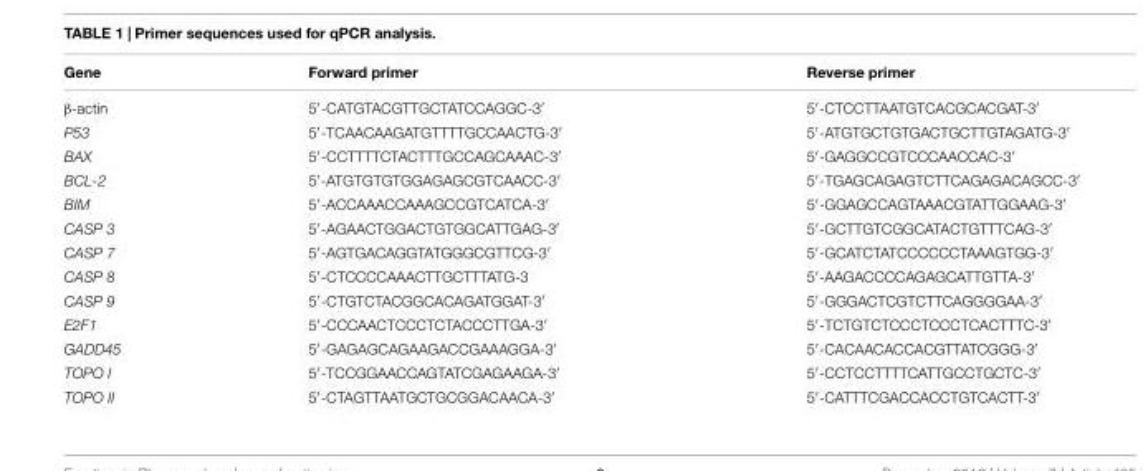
<table><thead><tr><td>Gene</td><td>Forward primer</td><td>Reverse primer</td></tr></thead><tbody><tr><td>β-actin</td><td>5′-CATGTACGTTGCTATCCAGGC-3′</td><td>5′-CTCCTTAATGTCACGCACGAT-3′</td></tr><tr><td>P53</td><td>5′-TCAACAAGATGTTTTGCCAACTG-3′</td><td>5′-ATGTGCTGTGACTGCTTGTAGATG-3′</td></tr><tr><td>BAX</td><td>5′-CCTTTTCTACTTTGCCAGCAAAC-3′</td><td>5′-GAGGCCGTCCCAACCAC-3′</td></tr><tr><td>BCL-2</td><td>5′-ATGTGTGTGGAGAGCGTCAACC-3′</td><td>5′-TGAGCAGAGTCTTCAGAGACAGCC-3′</td></tr><tr><td>BIM</td><td>5′-ACCAAACCAAAGCCGTCATCA-3′</td><td>5′-GGAGCCAGTAAACGTATTGGAAG-3′</td></tr><tr><td>CASP 3</td><td>5′-AGAACTGGACTGTGGCATTGAG-3′</td><td>5′-GCTTGTCGGCATACTGTTTCAG-3′</td></tr><tr><td>CASP 7</td><td>5′-AGTGACAGGTATGGGCGTTCG-3′</td><td>5′-GCATCTATCCCCCCTAAAGTGG-3′</td></tr><tr><td>CASP 8</td><td>5′-CTCCCCAAACTTGCTTTATG-3</td><td>5′-AAGACCCCAGAGCATTGTTA-3′</td></tr><tr><td>CASP 9</td><td>5′-CTGTCTACGGCACAGATGGAT-3′</td><td>5′-GGGACTCGTCTTCAGGGGAA-3′</td></tr><tr><td>E2F1</td><td>5′-CCCAACTCCCTCTACCCTTGA-3′</td><td>5′-TCTGTCTCCCTCCCTCACTTTC-3′</td></tr><tr><td>GADD45</td><td>5′-GAGAGCAGAAGACCGAAAGGA-3′</td><td>5′-CACAACACCACGTTATCGGG-3′</td></tr><tr><td>TOPO I</td><td>5′-TCCGGAACCAGTATCGAGAAGA-3′</td><td>5′-CCTCCTTTTCATTGCCTGCTC-3′</td></tr><tr><td>TOPO II</td><td>5′-CTAGTTAATGCTGCGGACAACA-3′</td><td>5′-CATTTCGACCACCTGTCACTT-3′</td></tr></tbody></table>